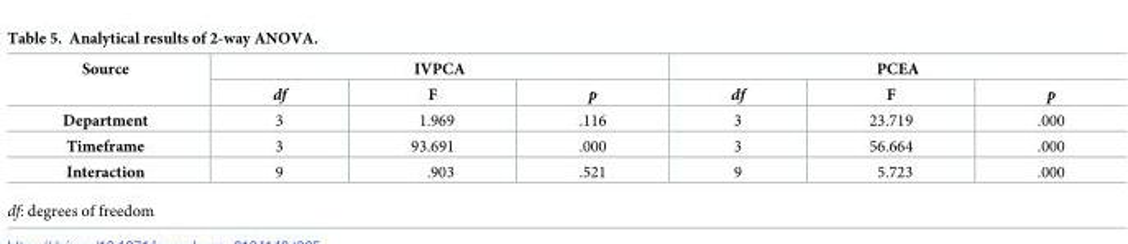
<table><thead><tr><td rowspan="2">Source</td><td colspan="3">IVPCA</td><td colspan="3">PCEA</td></tr><tr><td>df</td><td>F</td><td>p</td><td>df</td><td>F</td><td>p</td></tr></thead><tbody><tr><td>Department</td><td>3</td><td>1.969</td><td>.116</td><td>3</td><td>23.719</td><td>.000</td></tr><tr><td>Timeframe</td><td>3</td><td>93.691</td><td>.000</td><td>3</td><td>56.664</td><td>.000</td></tr><tr><td>Interaction</td><td>9</td><td>.903</td><td>.521</td><td>9</td><td>5.723</td><td>.000</td></tr></tbody></table>